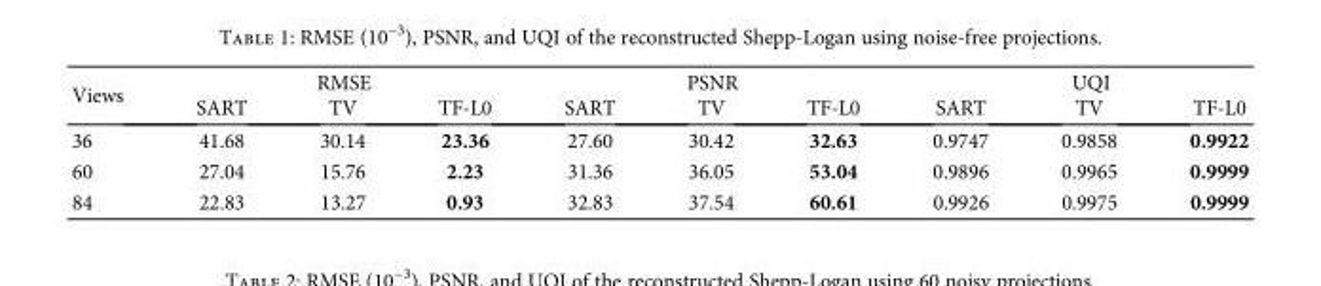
<table><thead><tr><td rowspan="2">Views</td><td colspan="3">RMSE</td><td colspan="3">PSNR</td><td colspan="3">UQI</td></tr><tr><td>SART</td><td>TV</td><td>TF-L0</td><td>SART</td><td>TV</td><td>TF-L0</td><td>SART</td><td>TV</td><td>TF-L0</td></tr></thead><tbody><tr><td>36</td><td>41.68</td><td>30.14</td><td>23.36</td><td>27.60</td><td>30.42</td><td>32.63</td><td>0.9747</td><td>0.9858</td><td>0.9922</td></tr><tr><td>60</td><td>27.04</td><td>15.76</td><td>2.23</td><td>31.36</td><td>36.05</td><td>53.04</td><td>0.9896</td><td>0.9965</td><td>0.9999</td></tr><tr><td>84</td><td>22.83</td><td>13.27</td><td>0.93</td><td>32.83</td><td>37.54</td><td>60.61</td><td>0.9926</td><td>0.9975</td><td>0.9999</td></tr></tbody></table>